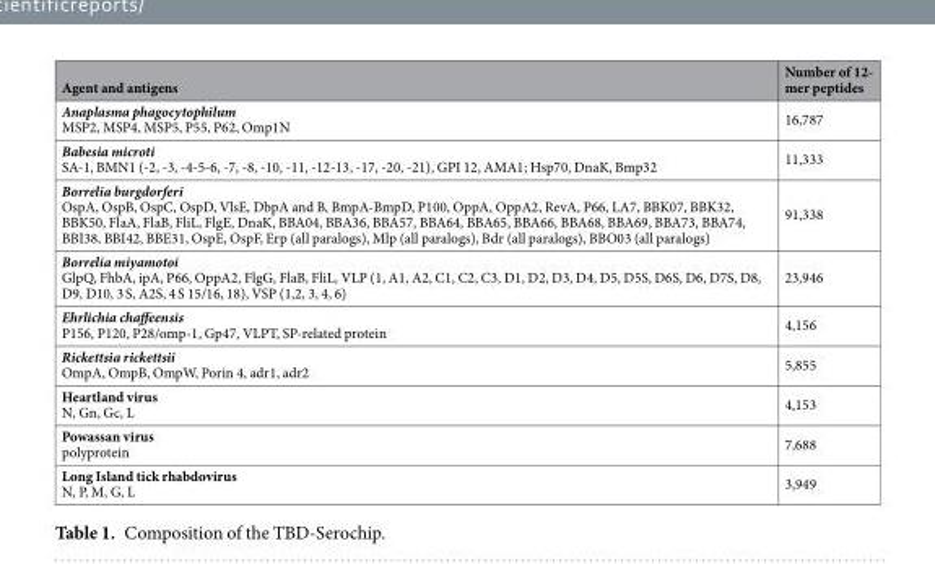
<table><thead><tr><td>Agent and antigens</td><td>Number of 12- mer peptides</td></tr></thead><tbody><tr><td>Anaplasma phagocytophilum MSP2, MSP4, MSP5, P55, P62, Omp1N</td><td>16,787</td></tr><tr><td>Babesia microti SA-1, BMN1 (-2, -3, -4-5-6, -7, -8, -10, -11, -12-13, -17, -20, -21), GPI 12, AMA1; Hsp70, DnaK, Bmp32</td><td>11,333</td></tr><tr><td>Borrelia burgdorferi OspA, OspB, OspC, OspD, VlsE, DbpA and B, BmpA-BmpD, P100, OppA, OppA2, RevA, P66, LA7, BBK07, BBK32, BBK50, FlaA, FlaB, FliL, FlgE, DnaK, BBA04, BBA36, BBA57, BBA64, BBA65, BBA66, BBA68, BBA69, BBA73, BBA74, BBI38, BBI42, BBE31, OspE, OspF, Erp (all paralogs), Mlp (all paralogs), Bdr (all paralogs), BBO03 (all paralogs)</td><td>91,338</td></tr><tr><td>Borrelia miyamotoi GlpQ, FhbA, ipA, P66, OppA2, FlgG, FlaB, FliL, VLP (1, A1, A2, C1, C2, C3, D1, D2, D3, D4, D5, D5S, D6S, D6, D7S, D8, D9, D10, 3 S, A2S, 4 S 15/16, 18), VSP (1,2, 3, 4, 6)</td><td>23,946</td></tr><tr><td>Ehrlichia chaffeensis P156, P120, P28/omp-1, Gp47, VLPT, SP-related protein</td><td>4,156</td></tr><tr><td>Rickettsia rickettsii OmpA, OmpB, OmpW, Porin 4, adr1, adr2</td><td>5,855</td></tr><tr><td>Heartland virus N, Gn, Gc, L</td><td>4,153</td></tr><tr><td>Powassan virus polyprotein</td><td>7,688</td></tr><tr><td>Long Island tick rhabdovirus N, P, M, G, L</td><td>3,949</td></tr></tbody></table>